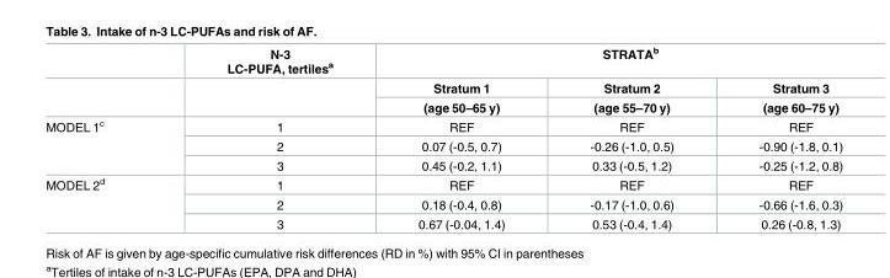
<table><thead><tr><td rowspan="3"></td><td rowspan="3">N-3 LC-PUFA, tertiles<sup>a</sup></td><td colspan="3">STRATA<sup>b</sup></td></tr><tr><td rowspan="2">Stratum 1 (age 50–65 y)</td><td rowspan="2">Stratum 2 (age 55–70 y)</td><td rowspan="2">Stratum 3 (age 60–75 y)</td></tr><tr></tr></thead><tbody><tr><td rowspan="3">MODEL 1<sup>c</sup></td><td>1</td><td>REF</td><td>REF</td><td>REF</td></tr><tr><td>2</td><td>0.07 (-0.5, 0.7)</td><td>-0.26 (-1.0, 0.5)</td><td>-0.90 (-1.8, 0.1)</td></tr><tr><td>3</td><td>0.45 (-0.2, 1.1)</td><td>0.33 (-0.5, 1.2)</td><td>-0.25 (-1.2, 0.8)</td></tr><tr><td rowspan="3">MODEL 2<sup>d</sup></td><td>1</td><td>REF</td><td>REF</td><td>REF</td></tr><tr><td>2</td><td>0.18 (-0.4, 0.8)</td><td>-0.17 (-1.0, 0.6)</td><td>-0.66 (-1.6, 0.3)</td></tr><tr><td>3</td><td>0.67 (-0.04, 1.4)</td><td>0.53 (-0.4, 1.4)</td><td>0.26 (-0.8, 1.3)</td></tr></tbody></table>